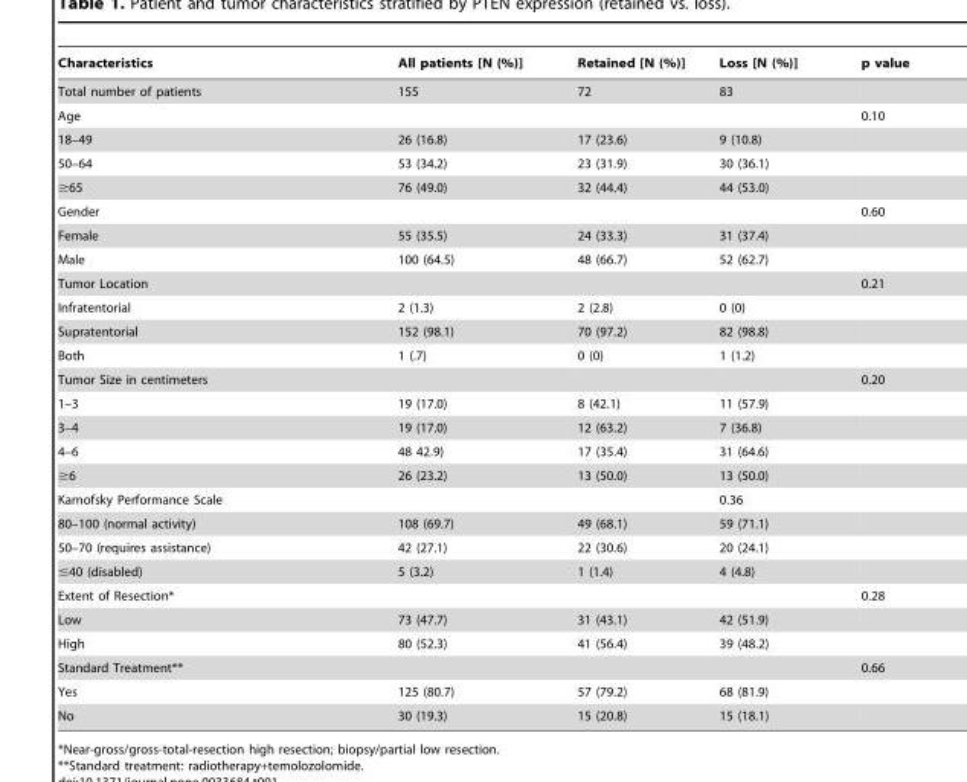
<table><thead><tr><td>Characteristics</td><td>All patients [N (%)]</td><td>Retained [N (%)]</td><td>Loss [N (%)]</td><td>p value</td></tr></thead><tbody><tr><td>Total number of patients</td><td>155</td><td>72</td><td>83</td><td></td></tr><tr><td>Age</td><td></td><td></td><td></td><td>0.10</td></tr><tr><td>18–49</td><td>26 (16.8)</td><td>17 (23.6)</td><td>9 (10.8)</td><td></td></tr><tr><td>50–64</td><td>53 (34.2)</td><td>23 (31.9)</td><td>30 (36.1)</td><td></td></tr><tr><td>≥65</td><td>76 (49.0)</td><td>32 (44.4)</td><td>44 (53.0)</td><td></td></tr><tr><td>Gender</td><td></td><td></td><td></td><td>0.60</td></tr><tr><td>Female</td><td>55 (35.5)</td><td>24 (33.3)</td><td>31 (37.4)</td><td></td></tr><tr><td>Male</td><td>100 (64.5)</td><td>48 (66.7)</td><td>52 (62.7)</td><td></td></tr><tr><td>Tumor Location</td><td></td><td></td><td></td><td>0.21</td></tr><tr><td>Infratentorial</td><td>2 (1.3)</td><td>2 (2.8)</td><td>0 (0)</td><td></td></tr><tr><td>Supratentorial</td><td>152 (98.1)</td><td>70 (97.2)</td><td>82 (98.8)</td><td></td></tr><tr><td>Both</td><td>1 (.7)</td><td>0 (0)</td><td>1 (1.2)</td><td></td></tr><tr><td>Tumor Size in centimeters</td><td></td><td></td><td></td><td>0.20</td></tr><tr><td>1–3</td><td>19 (17.0)</td><td>8 (42.1)</td><td>11 (57.9)</td><td></td></tr><tr><td>3–4</td><td>19 (17.0)</td><td>12 (63.2)</td><td>7 (36.8)</td><td></td></tr><tr><td>4–6</td><td>48 42.9)</td><td>17 (35.4)</td><td>31 (64.6)</td><td></td></tr><tr><td>≥6</td><td>26 (23.2)</td><td>13 (50.0)</td><td>13 (50.0)</td><td></td></tr><tr><td>Karnofsky Performance Scale</td><td></td><td></td><td>0.36</td><td></td></tr><tr><td>80–100 (normal activity)</td><td>108 (69.7)</td><td>49 (68.1)</td><td>59 (71.1)</td><td></td></tr><tr><td>50–70 (requires assistance)</td><td>42 (27.1)</td><td>22 (30.6)</td><td>20 (24.1)</td><td></td></tr><tr><td>≤40 (disabled)</td><td>5 (3.2)</td><td>1 (1.4)</td><td>4 (4.8)</td><td></td></tr><tr><td>Extent of Resection*</td><td></td><td></td><td></td><td>0.28</td></tr><tr><td>Low</td><td>73 (47.7)</td><td>31 (43.1)</td><td>42 (51.9)</td><td></td></tr><tr><td>High</td><td>80 (52.3)</td><td>41 (56.4)</td><td>39 (48.2)</td><td></td></tr><tr><td>Standard Treatment**</td><td></td><td></td><td></td><td>0.66</td></tr><tr><td>Yes</td><td>125 (80.7)</td><td>57 (79.2)</td><td>68 (81.9)</td><td></td></tr><tr><td>No</td><td>30 (19.3)</td><td>15 (20.8)</td><td>15 (18.1)</td><td></td></tr></tbody></table>